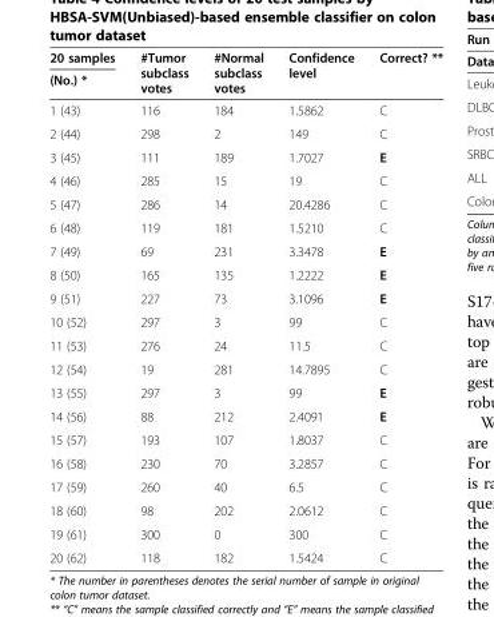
<table><thead><tr><td rowspan="2">20 samples (No.) *</td><td rowspan="2">#Tumor subclass votes</td><td rowspan="2">#Normal subclass votes</td><td rowspan="2">Confidence level</td><td rowspan="2">Correct? **</td></tr><tr></tr></thead><tbody><tr><td>1 (43)</td><td>116</td><td>184</td><td>1.5862</td><td>C</td></tr><tr><td>2 (44)</td><td>298</td><td>2</td><td>149</td><td>C</td></tr><tr><td>3 (45)</td><td>111</td><td>189</td><td>1.7027</td><td>E</td></tr><tr><td>4 (46)</td><td>285</td><td>15</td><td>19</td><td>C</td></tr><tr><td>5 (47)</td><td>286</td><td>14</td><td>20.4286</td><td>C</td></tr><tr><td>6 (48)</td><td>119</td><td>181</td><td>1.5210</td><td>C</td></tr><tr><td>7 (49)</td><td>69</td><td>231</td><td>3.3478</td><td>E</td></tr><tr><td>8 (50)</td><td>165</td><td>135</td><td>1.2222</td><td>E</td></tr><tr><td>9 (51)</td><td>227</td><td>73</td><td>3.1096</td><td>E</td></tr><tr><td>10 (52)</td><td>297</td><td>3</td><td>99</td><td>C</td></tr><tr><td>11 (53)</td><td>276</td><td>24</td><td>11.5</td><td>C</td></tr><tr><td>12 (54)</td><td>19</td><td>281</td><td>14.7895</td><td>C</td></tr><tr><td>13 (55)</td><td>297</td><td>3</td><td>99</td><td>E</td></tr><tr><td>14 (56)</td><td>88</td><td>212</td><td>2.4091</td><td>E</td></tr><tr><td>15 (57)</td><td>193</td><td>107</td><td>1.8037</td><td>C</td></tr><tr><td>16 (58)</td><td>230</td><td>70</td><td>3.2857</td><td>C</td></tr><tr><td>17 (59)</td><td>260</td><td>40</td><td>6.5</td><td>C</td></tr><tr><td>18 (60)</td><td>98</td><td>202</td><td>2.0612</td><td>C</td></tr><tr><td>19 (61)</td><td>300</td><td>0</td><td>300</td><td>C</td></tr><tr><td>20 (62)</td><td>118</td><td>182</td><td>1.5424</td><td>C</td></tr></tbody></table>